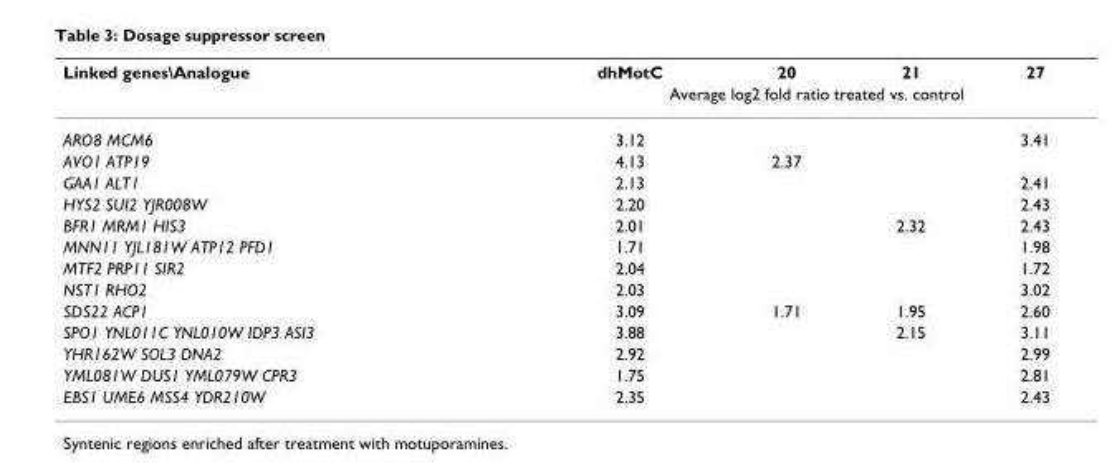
<table><thead><tr><td rowspan="2">Linked genes\Analogue</td><td>dhMotC</td><td>20</td><td>21</td><td>27</td></tr><tr><td colspan="4">Average log2 fold ratio treated vs. control</td></tr></thead><tbody><tr><td>ARO8 MCM6</td><td>3.12</td><td></td><td></td><td>3.41</td></tr><tr><td>AVO1 ATP19</td><td>4.13</td><td>2.37</td><td></td><td></td></tr><tr><td>GAA1 ALT1</td><td>2.13</td><td></td><td></td><td>2.41</td></tr><tr><td>HYS2 SUI2 YJR008W</td><td>2.20</td><td></td><td></td><td>2.43</td></tr><tr><td>BFR1 MRM1 HIS3</td><td>2.01</td><td></td><td>2.32</td><td>2.43</td></tr><tr><td>MNN11 YJL181W ATP12 PFD1</td><td>1.71</td><td></td><td></td><td>1.98</td></tr><tr><td>MTF2 PRP11 SIR2</td><td>2.04</td><td></td><td></td><td>1.72</td></tr><tr><td>NST1 RHO2</td><td>2.03</td><td></td><td></td><td>3.02</td></tr><tr><td>SDS22 ACP1</td><td>3.09</td><td>1.71</td><td>1.95</td><td>2.60</td></tr><tr><td>SPO1 YNL011C YNL010W IDP3 ASI3</td><td>3.88</td><td></td><td>2.15</td><td>3.11</td></tr><tr><td>YHR162W SOL3 DNA2</td><td>2.92</td><td></td><td></td><td>2.99</td></tr><tr><td>YML081W DUS1 YML079W CPR3</td><td>1.75</td><td></td><td></td><td>2.81</td></tr><tr><td>EBS1 UME6 MSS4 YDR210W</td><td>2.35</td><td></td><td></td><td>2.43</td></tr></tbody></table>